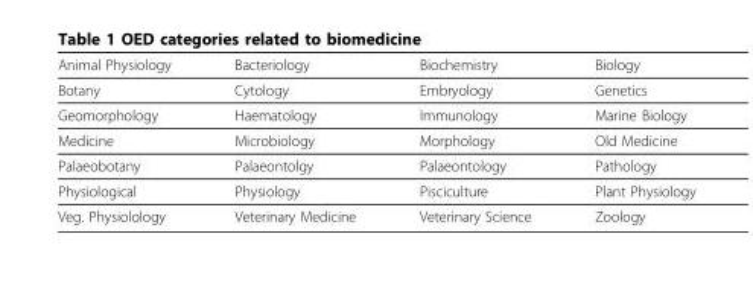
<table><thead><tr><td>Animal Physiology</td><td>Bacteriology</td><td>Biochemistry</td><td>Biology</td></tr></thead><tbody><tr><td>Botany</td><td>Cytology</td><td>Embryology</td><td>Genetics</td></tr><tr><td>Geomorphology</td><td>Haematology</td><td>Immunology</td><td>Marine Biology</td></tr><tr><td>Medicine</td><td>Microbiology</td><td>Morphology</td><td>Old Medicine</td></tr><tr><td>Palaeobotany</td><td>Palaeontolgy</td><td>Palaeontology</td><td>Pathology</td></tr><tr><td>Physiological</td><td>Physiology</td><td>Pisciculture</td><td>Plant Physiology</td></tr><tr><td>Veg. Physiolology</td><td>Veterinary Medicine</td><td>Veterinary Science</td><td>Zoology</td></tr></tbody></table>